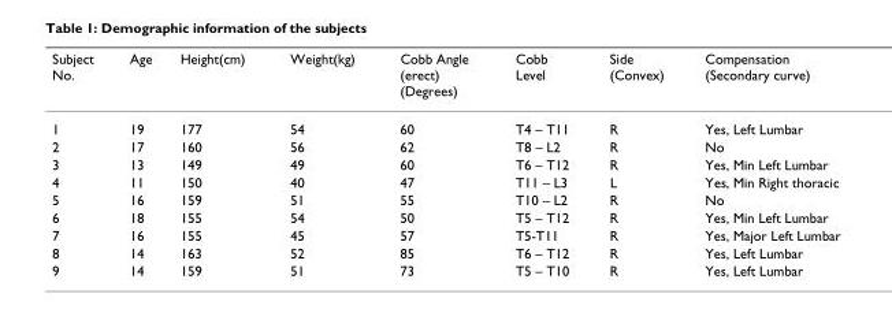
<table><thead><tr><td>Subject No.</td><td>Age</td><td>Height(cm)</td><td>Weight(kg)</td><td>Cobb Angle (erect) (Degrees)</td><td>Cobb Level</td><td>Side (Convex)</td><td>Compensation (Secondary curve)</td></tr></thead><tbody><tr><td>1</td><td>19</td><td>177</td><td>54</td><td>60</td><td>T4 – T11</td><td>R</td><td>Yes, Left Lumbar</td></tr><tr><td>2</td><td>17</td><td>160</td><td>56</td><td>62</td><td>T8 – L2</td><td>R</td><td>No</td></tr><tr><td>3</td><td>13</td><td>149</td><td>49</td><td>60</td><td>T6 – T12</td><td>R</td><td>Yes, Min Left Lumbar</td></tr><tr><td>4</td><td>11</td><td>150</td><td>40</td><td>47</td><td>T11 – L3</td><td>L</td><td>Yes, Min Right thoracic</td></tr><tr><td>5</td><td>16</td><td>159</td><td>51</td><td>55</td><td>T10 – L2</td><td>R</td><td>No</td></tr><tr><td>6</td><td>18</td><td>155</td><td>54</td><td>50</td><td>T5 – T12</td><td>R</td><td>Yes, Min Left Lumbar</td></tr><tr><td>7</td><td>16</td><td>155</td><td>45</td><td>57</td><td>T5-T11</td><td>R</td><td>Yes, Major Left Lumbar</td></tr><tr><td>8</td><td>14</td><td>163</td><td>52</td><td>85</td><td>T6 – T12</td><td>R</td><td>Yes, Left Lumbar</td></tr><tr><td>9</td><td>14</td><td>159</td><td>51</td><td>73</td><td>T5 – T10</td><td>R</td><td>Yes, Left Lumbar</td></tr></tbody></table>